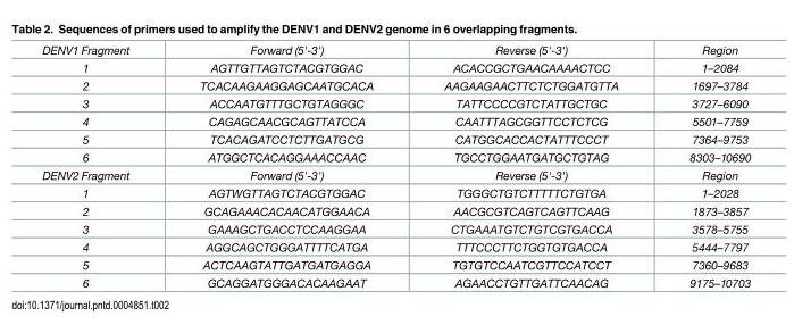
<table><tbody><tr><td>DENV1 Fragment</td><td>Forward (5&#x27;-3&#x27;)</td><td>Reverse (5&#x27;-3&#x27;)</td><td>Region</td></tr><tr><td>1</td><td>AGTTGTTAGTCTACGTGGAC</td><td>ACACCGCTGAACAAAACTCC</td><td>1–2084</td></tr><tr><td>2</td><td>TCACAAGAAGGAGCAATGCACA</td><td>AAGAAGAACTTCTCTGGATGTTA</td><td>1697–3784</td></tr><tr><td>3</td><td>ACCAATGTTTGCTGTAGGGC</td><td>TATTCCCCGTCTATTGCTGC</td><td>3727–6090</td></tr><tr><td>4</td><td>CAGAGCAACGCAGTTATCCA</td><td>CAATTTAGCGGTTCCTCTCG</td><td>5501–7759</td></tr><tr><td>5</td><td>TCACAGATCCTCTTGATGCG</td><td>CATGGCACCACTATTTCCCT</td><td>7364–9753</td></tr><tr><td>6</td><td>ATGGCTCACAGGAAACCAAC</td><td>TGCCTGGAATGATGCTGTAG</td><td>8303–10690</td></tr><tr><td>DENV2 Fragment</td><td>Forward (5&#x27;-3&#x27;)</td><td>Reverse (5&#x27;-3&#x27;)</td><td>Region</td></tr><tr><td>1</td><td>AGTWGTTAGTCTACGTGGAC</td><td>TGGGCTGTCTTTTTCTGTGA</td><td>1–2028</td></tr><tr><td>2</td><td>GCAGAAACACAACATGGAACA</td><td>AACGCGTCAGTCAGTTCAAG</td><td>1873–3857</td></tr><tr><td>3</td><td>GAAAGCTGACCTCCAAGGAA</td><td>CTGAAATGTCTGTCGTGACCA</td><td>3578–5755</td></tr><tr><td>4</td><td>AGGCAGCTGGGATTTTCATGA</td><td>TTTCCCTTCTGGTGTGACCA</td><td>5444–7797</td></tr><tr><td>5</td><td>ACTCAAGTATTGATGATGAGGA</td><td>TGTGTCCAATCGTTCCATCCT</td><td>7360–9683</td></tr><tr><td>6</td><td>GCAGGATGGGACACAAGAAT</td><td>AGAACCTGTTGATTCAACAG</td><td>9175–10703</td></tr></tbody></table>